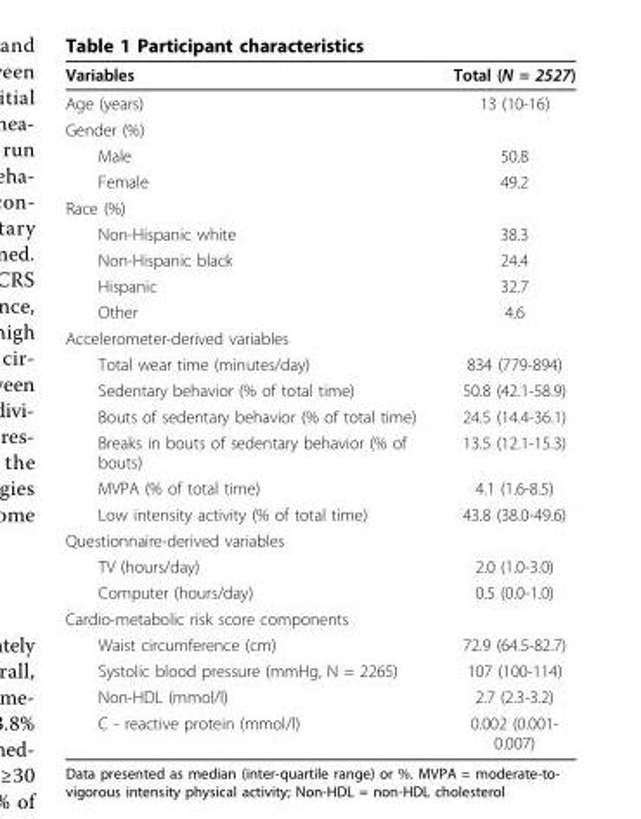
<table><thead><tr><td>Variables</td><td>Total (N = 2527)</td></tr></thead><tbody><tr><td>Age (years)</td><td>13 (10-16)</td></tr><tr><td colspan="2">Gender (%)</td></tr><tr><td>Male</td><td>50.8</td></tr><tr><td>Female</td><td>49.2</td></tr><tr><td colspan="2">Race (%)</td></tr><tr><td>Non-Hispanic white</td><td>38.3</td></tr><tr><td>Non-Hispanic black</td><td>24.4</td></tr><tr><td>Hispanic</td><td>32.7</td></tr><tr><td>Other</td><td>4.6</td></tr><tr><td colspan="2">Accelerometer-derived variables</td></tr><tr><td>Total wear time (minutes/day)</td><td>834 (779-894)</td></tr><tr><td>Sedentary behavior (% of total time)</td><td>50.8 (42.1-58.9)</td></tr><tr><td>Bouts of sedentary behavior (% of total time)</td><td>24.5 (14.4-36.1)</td></tr><tr><td>Breaks in bouts of sedentary behavior (% of bouts)</td><td>13.5 (12.1-15.3)</td></tr><tr><td>MVPA (% of total time)</td><td>4.1 (1.6-8.5)</td></tr><tr><td>Low intensity activity (% of total time)</td><td>43.8 (38.0-49.6)</td></tr><tr><td colspan="2">Questionnaire-derived variables</td></tr><tr><td>TV (hours/day)</td><td>2.0 (1.0-3.0)</td></tr><tr><td>Computer (hours/day)</td><td>0.5 (0.0-1.0)</td></tr><tr><td colspan="2">Cardio-metabolic risk score components</td></tr><tr><td>Waist circumference (cm)</td><td>72.9 (64.5-82.7)</td></tr><tr><td>Systolic blood pressure (mmHg, N = 2265)</td><td>107 (100-114)</td></tr><tr><td>Non-HDL (mmol/l)</td><td>2.7 (2.3-3.2)</td></tr><tr><td>C - reactive protein (mmol/l)</td><td>0.002 (0.001- 0.007)</td></tr></tbody></table>